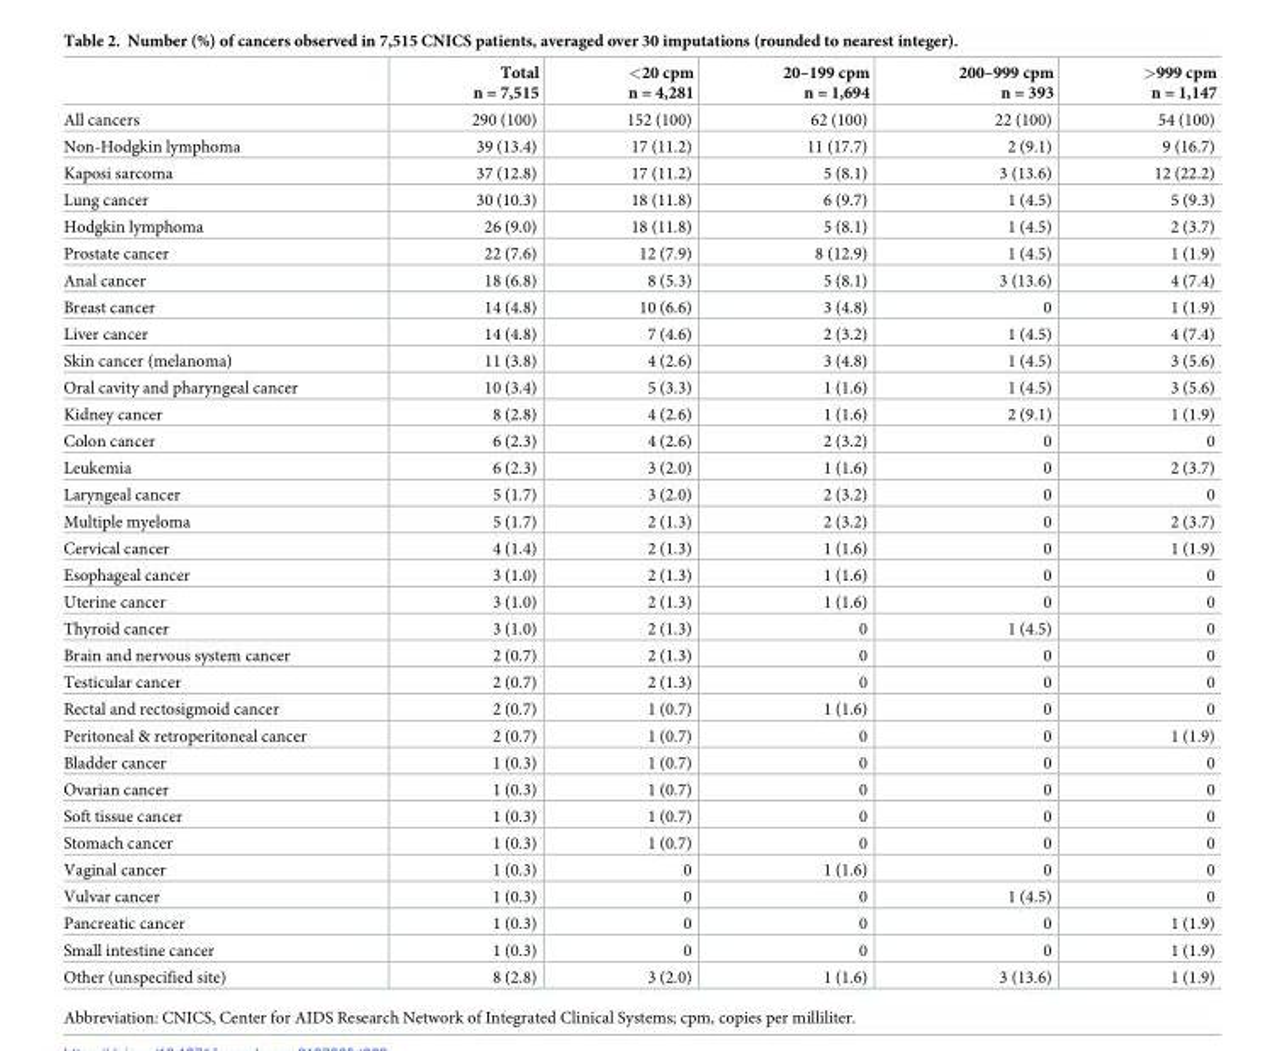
<table><thead><tr><td></td><td>Total n = 7,515</td><td>&lt;20 cpm n = 4,281</td><td>20–199 cpm n = 1,694</td><td>200–999 cpm n = 393</td><td>&gt;999 cpm n = 1,147</td></tr></thead><tbody><tr><td>All cancers</td><td>290 (100)</td><td>152 (100)</td><td>62 (100)</td><td>22 (100)</td><td>54 (100)</td></tr><tr><td>Non-Hodgkin lymphoma</td><td>39 (13.4)</td><td>17 (11.2)</td><td>11 (17.7)</td><td>2 (9.1)</td><td>9 (16.7)</td></tr><tr><td>Kaposi sarcoma</td><td>37 (12.8)</td><td>17 (11.2)</td><td>5 (8.1)</td><td>3 (13.6)</td><td>12 (22.2)</td></tr><tr><td>Lung cancer</td><td>30 (10.3)</td><td>18 (11.8)</td><td>6 (9.7)</td><td>1 (4.5)</td><td>5 (9.3)</td></tr><tr><td>Hodgkin lymphoma</td><td>26 (9.0)</td><td>18 (11.8)</td><td>5 (8.1)</td><td>1 (4.5)</td><td>2 (3.7)</td></tr><tr><td>Prostate cancer</td><td>22 (7.6)</td><td>12 (7.9)</td><td>8 (12.9)</td><td>1 (4.5)</td><td>1 (1.9)</td></tr><tr><td>Anal cancer</td><td>18 (6.8)</td><td>8 (5.3)</td><td>5 (8.1)</td><td>3 (13.6)</td><td>4 (7.4)</td></tr><tr><td>Breast cancer</td><td>14 (4.8)</td><td>10 (6.6)</td><td>3 (4.8)</td><td>0</td><td>1 (1.9)</td></tr><tr><td>Liver cancer</td><td>14 (4.8)</td><td>7 (4.6)</td><td>2 (3.2)</td><td>1 (4.5)</td><td>4 (7.4)</td></tr><tr><td>Skin cancer (melanoma)</td><td>11 (3.8)</td><td>4 (2.6)</td><td>3 (4.8)</td><td>1 (4.5)</td><td>3 (5.6)</td></tr><tr><td>Oral cavity and pharyngeal cancer</td><td>10 (3.4)</td><td>5 (3.3)</td><td>1 (1.6)</td><td>1 (4.5)</td><td>3 (5.6)</td></tr><tr><td>Kidney cancer</td><td>8 (2.8)</td><td>4 (2.6)</td><td>1 (1.6)</td><td>2 (9.1)</td><td>1 (1.9)</td></tr><tr><td>Colon cancer</td><td>6 (2.3)</td><td>4 (2.6)</td><td>2 (3.2)</td><td>0</td><td>0</td></tr><tr><td>Leukemia</td><td>6 (2.3)</td><td>3 (2.0)</td><td>1 (1.6)</td><td>0</td><td>2 (3.7)</td></tr><tr><td>Laryngeal cancer</td><td>5 (1.7)</td><td>3 (2.0)</td><td>2 (3.2)</td><td>0</td><td>0</td></tr><tr><td>Multiple myeloma</td><td>5 (1.7)</td><td>2 (1.3)</td><td>2 (3.2)</td><td>0</td><td>2 (3.7)</td></tr><tr><td>Cervical cancer</td><td>4 (1.4)</td><td>2 (1.3)</td><td>1 (1.6)</td><td>0</td><td>1 (1.9)</td></tr><tr><td>Esophageal cancer</td><td>3 (1.0)</td><td>2 (1.3)</td><td>1 (1.6)</td><td>0</td><td>0</td></tr><tr><td>Uterine cancer</td><td>3 (1.0)</td><td>2 (1.3)</td><td>1 (1.6)</td><td>0</td><td>0</td></tr><tr><td>Thyroid cancer</td><td>3 (1.0)</td><td>2 (1.3)</td><td>0</td><td>1 (4.5)</td><td>0</td></tr><tr><td>Brain and nervous system cancer</td><td>2 (0.7)</td><td>2 (1.3)</td><td>0</td><td>0</td><td>0</td></tr><tr><td>Testicular cancer</td><td>2 (0.7)</td><td>2 (1.3)</td><td>0</td><td>0</td><td>0</td></tr><tr><td>Rectal and rectosigmoid cancer</td><td>2 (0.7)</td><td>1 (0.7)</td><td>1 (1.6)</td><td>0</td><td>0</td></tr><tr><td>Peritoneal &amp; retroperitoneal cancer</td><td>2 (0.7)</td><td>1 (0.7)</td><td>0</td><td>0</td><td>1 (1.9)</td></tr><tr><td>Bladder cancer</td><td>1 (0.3)</td><td>1 (0.7)</td><td>0</td><td>0</td><td>0</td></tr><tr><td>Ovarian cancer</td><td>1 (0.3)</td><td>1 (0.7)</td><td>0</td><td>0</td><td>0</td></tr><tr><td>Soft tissue cancer</td><td>1 (0.3)</td><td>1 (0.7)</td><td>0</td><td>0</td><td>0</td></tr><tr><td>Stomach cancer</td><td>1 (0.3)</td><td>1 (0.7)</td><td>0</td><td>0</td><td>0</td></tr><tr><td>Vaginal cancer</td><td>1 (0.3)</td><td>0</td><td>1 (1.6)</td><td>0</td><td>0</td></tr><tr><td>Vulvar cancer</td><td>1 (0.3)</td><td>0</td><td>0</td><td>1 (4.5)</td><td>0</td></tr><tr><td>Pancreatic cancer</td><td>1 (0.3)</td><td>0</td><td>0</td><td>0</td><td>1 (1.9)</td></tr><tr><td>Small intestine cancer</td><td>1 (0.3)</td><td>0</td><td>0</td><td>0</td><td>1 (1.9)</td></tr><tr><td>Other (unspecified site)</td><td>8 (2.8)</td><td>3 (2.0)</td><td>1 (1.6)</td><td>3 (13.6)</td><td>1 (1.9)</td></tr></tbody></table>